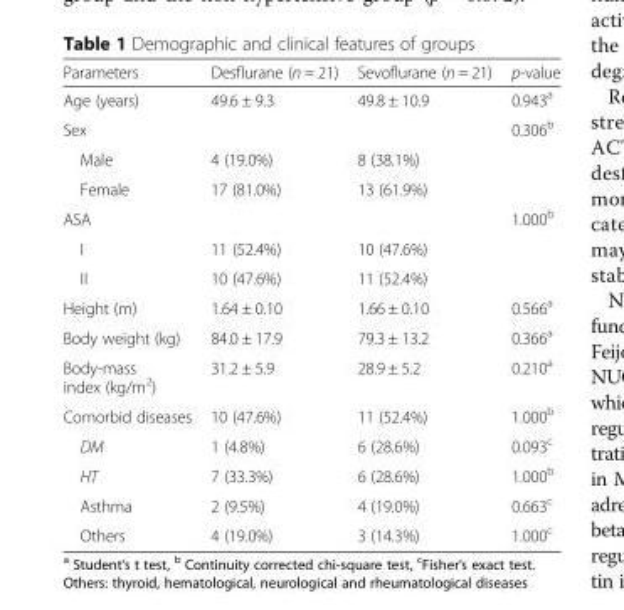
<table><thead><tr><td>Parameters</td><td>Desflurane (n = 21)</td><td>Sevoflurane (n = 21)</td><td>p-value</td></tr></thead><tbody><tr><td>Age (years)</td><td>49.6 ± 9.3</td><td>49.8 ± 10.9</td><td>0.943<sup>a</sup></td></tr><tr><td>Sex</td><td></td><td></td><td>0.306<sup>b</sup></td></tr><tr><td>Male</td><td>4 (19.0%)</td><td>8 (38.1%)</td><td></td></tr><tr><td>Female</td><td>17 (81.0%)</td><td>13 (61.9%)</td><td></td></tr><tr><td>ASA</td><td></td><td></td><td>1.000<sup>b</sup></td></tr><tr><td>I</td><td>11 (52.4%)</td><td>10 (47.6%)</td><td></td></tr><tr><td>II</td><td>10 (47.6%)</td><td>11 (52.4%)</td><td></td></tr><tr><td>Height (m)</td><td>1.64 ± 0.10</td><td>1.66 ± 0.10</td><td>0.566<sup>a</sup></td></tr><tr><td>Body weight (kg)</td><td>84.0 ± 17.9</td><td>79.3 ± 13.2</td><td>0.366<sup>a</sup></td></tr><tr><td>Body-mass index (kg/m<sup>2</sup>)</td><td>31.2 ± 5.9</td><td>28.9 ± 5.2</td><td>0.210<sup>a</sup></td></tr><tr><td>Comorbid diseases</td><td>10 (47.6%)</td><td>11 (52.4%)</td><td>1.000<sup>b</sup></td></tr><tr><td>DM</td><td>1 (4.8%)</td><td>6 (28.6%)</td><td>0.093<sup>c</sup></td></tr><tr><td>HT</td><td>7 (33.3%)</td><td>6 (28.6%)</td><td>1.000<sup>b</sup></td></tr><tr><td>Asthma</td><td>2 (9.5%)</td><td>4 (19.0%)</td><td>0.663<sup>c</sup></td></tr><tr><td>Others</td><td>4 (19.0%)</td><td>3 (14.3%)</td><td>1.000<sup>c</sup></td></tr></tbody></table>